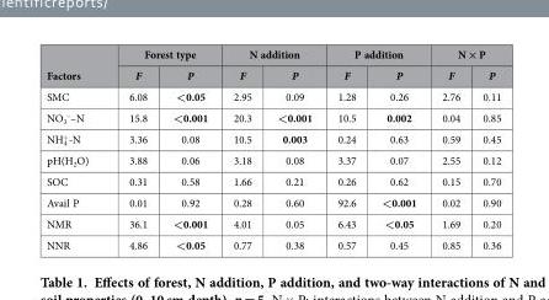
<table><thead><tr><td rowspan="2">Factors</td><td colspan="2">Forest type</td><td colspan="2">N addition</td><td colspan="2">P addition</td><td colspan="2">N × P</td></tr><tr><td>F</td><td>P</td><td>F</td><td>P</td><td>F</td><td>P</td><td>F</td><td>P</td></tr></thead><tbody><tr><td>SMC</td><td>6.08</td><td>&lt;0.05</td><td>2.95</td><td>0.09</td><td>1.28</td><td>0.26</td><td>2.76</td><td>0.11</td></tr><tr><td>NO<sub>3</sub> <sup>–</sup>–N</td><td>15.8</td><td>&lt;0.001</td><td>20.3</td><td>&lt;0.001</td><td>10.5</td><td>0.002</td><td>0.04</td><td>0.85</td></tr><tr><td>NH<sub>4</sub> <sup>+</sup>-N</td><td>3.36</td><td>0.08</td><td>10.5</td><td>0.003</td><td>0.24</td><td>0.63</td><td>0.59</td><td>0.45</td></tr><tr><td>pH(H<sub>2</sub>O)</td><td>3.88</td><td>0.06</td><td>3.18</td><td>0.08</td><td>3.37</td><td>0.07</td><td>2.55</td><td>0.12</td></tr><tr><td>SOC</td><td>0.31</td><td>0.58</td><td>1.66</td><td>0.21</td><td>0.26</td><td>0.62</td><td>0.15</td><td>0.70</td></tr><tr><td>Avail P</td><td>0.01</td><td>0.92</td><td>0.28</td><td>0.60</td><td>92.6</td><td>&lt;0.001</td><td>0.02</td><td>0.90</td></tr><tr><td>NMR</td><td>36.1</td><td>&lt;0.001</td><td>4.01</td><td>0.05</td><td>6.43</td><td>&lt;0.05</td><td>1.69</td><td>0.20</td></tr><tr><td>NNR</td><td>4.86</td><td>&lt;0.05</td><td>0.77</td><td>0.38</td><td>0.57</td><td>0.45</td><td>0.85</td><td>0.36</td></tr></tbody></table>